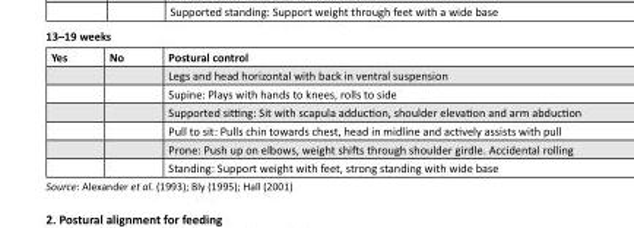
<table><thead><tr><td>Yes</td><td>No</td><td>Postural control</td></tr></thead><tbody><tr><td></td><td></td><td>Legs and head horizontal with back in ventral suspension</td></tr><tr><td></td><td></td><td>Supine: Plays with hands to knees, rolls to side</td></tr><tr><td></td><td></td><td>Supported sitting: Sit with scapula adduction, shoulder elevation and arm abduction</td></tr><tr><td></td><td></td><td>Pull to sit: Pulls chin towards chest, head in midline and actively assists with pull</td></tr><tr><td></td><td></td><td>Prone: Push up on elbows, weight shifts through shoulder girdle. Accidental rolling</td></tr><tr><td></td><td></td><td>Standing: Support weight with feet, strong standing with wide base</td></tr></tbody></table>